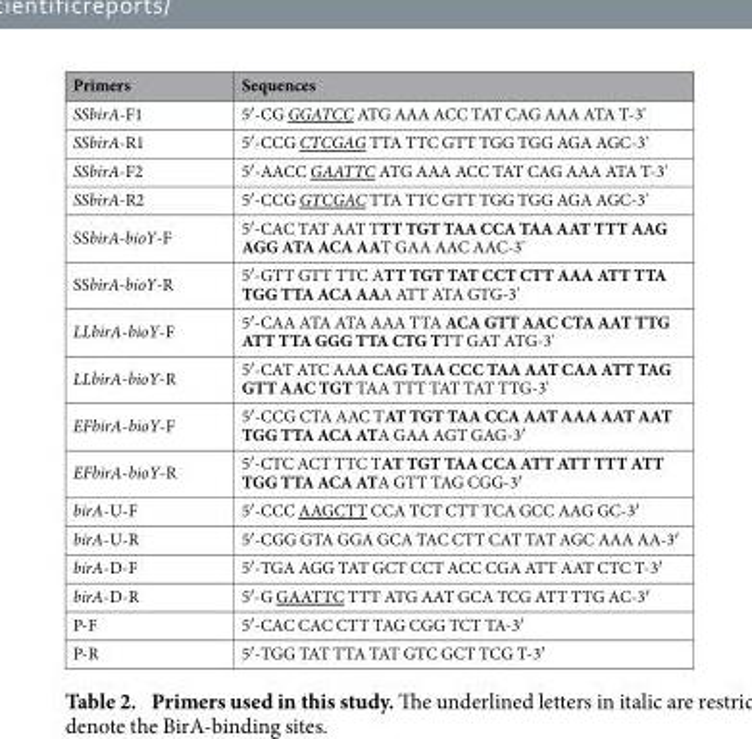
<table><thead><tr><td>Primers</td><td>Sequences</td></tr></thead><tbody><tr><td>SSbirA-F1</td><td>5′ -CG GGATCC ATG AAA ACC TAT CAG AAA ATA T-3&#x27;</td></tr><tr><td>SSbirA-R1</td><td>5′ -CCG CTCGAG TTA TTC GTT TGG TGG AGA AGC-3&#x27;</td></tr><tr><td>SSbirA-F2</td><td>5′ -AACC GAATTC ATG AAA ACC TAT CAG AAA ATA T-3&#x27;</td></tr><tr><td>SSbirA-R2</td><td>5′ -CCG GTCGAC TTA TTC GTT TGG TGG AGA AGC-3&#x27;</td></tr><tr><td>SSbirA-bioY-F</td><td>5′ -CAC TAT AAT TTT TGT TAA CCA TAA AAT TTT AAG AGG ATA ACA AAT GAA AAC AAC-3&#x27;</td></tr><tr><td>SSbirA-bioY-R</td><td>5′ -GTT GTT TTC ATT TGT TAT CCT CTT AAA ATT TTA TGG TTA ACA AAA ATT ATA GTG-3&#x27;</td></tr><tr><td>LLbirA-bioY-F</td><td>5′ -CAA ATA ATA AAA TTA ACA GTT AAC CTA AAT TTG ATT TTA GGG TTA CTG TTT GAT ATG-3&#x27;</td></tr><tr><td>LLbirA-bioY-R</td><td>5′ -CAT ATC AAA CAG TAA CCC TAA AAT CAA ATT TAG GTT AAC TGT TAA TTT TAT TAT TTG-3&#x27;</td></tr><tr><td>EFbirA-bioY-F</td><td>5′ -CCG CTA AAC TAT TGT TAA CCA AAT AAA AAT AAT TGG TTA ACA ATA GAA AGT GAG-3′</td></tr><tr><td>EFbirA-bioY-R</td><td>5′ -CTC ACT TTC TAT TGT TAA CCA ATT ATT TTT ATT TGG TTA ACA ATA GTT TAG CGG-3′</td></tr><tr><td>birA-U-F</td><td>5′ -CCC AAGCTT CCA TCT CTT TCA GCC AAG GC-3′</td></tr><tr><td>birA-U-R</td><td>5′ -CGG GTA GGA GCA TAC CTT CAT TAT AGC AAA AA-3′</td></tr><tr><td>birA-D-F</td><td>5′ -TGA AGG TAT GCT CCT ACC CGA ATT AAT CTC T-3′</td></tr><tr><td>birA-D-R</td><td>5′ -G GAATTC TTT ATG AAT GCA TCG ATT TTG AC-3′</td></tr><tr><td>P-F</td><td>5′ -CAC CAC CTT TAG CGG TCT TA-3′</td></tr><tr><td>P-R</td><td>5′ -TGG TAT TTA TAT GTC GCT TCG T-3′</td></tr></tbody></table>